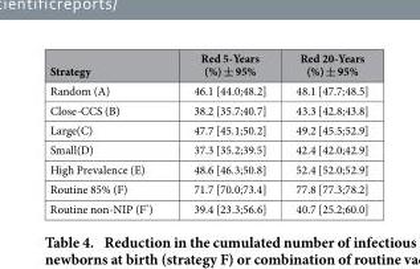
<table><thead><tr><td>Strategy</td><td>Red 5-Years (%) ± 95%</td><td>Red 20-Years (%) ± 95%</td></tr></thead><tbody><tr><td>Random (A)</td><td>46.1 [44.0;48.2]</td><td>48.1 [47.7;48.5]</td></tr><tr><td>Close-CCS (B)</td><td>38.2 [35.7;40.7]</td><td>43.3 [42.8;43.8]</td></tr><tr><td>Large(C)</td><td>47.7 [45.1;50.2]</td><td>49.2 [45.5;52.9]</td></tr><tr><td>Small(D)</td><td>37.3 [35.2;39.5]</td><td>42.4 [42.0;42.9]</td></tr><tr><td>High Prevalence (E)</td><td>48.6 [46.3;50.8]</td><td>52.4 [52.0;52.9]</td></tr><tr><td>Routine 85% (F)</td><td>71.7 [70.0;73.4]</td><td>77.8 [77.3;78.2]</td></tr><tr><td>Routine non-NIP (F*)</td><td>39.4 [23.3;56.6]</td><td>40.7 [25.2;60.0]</td></tr></tbody></table>